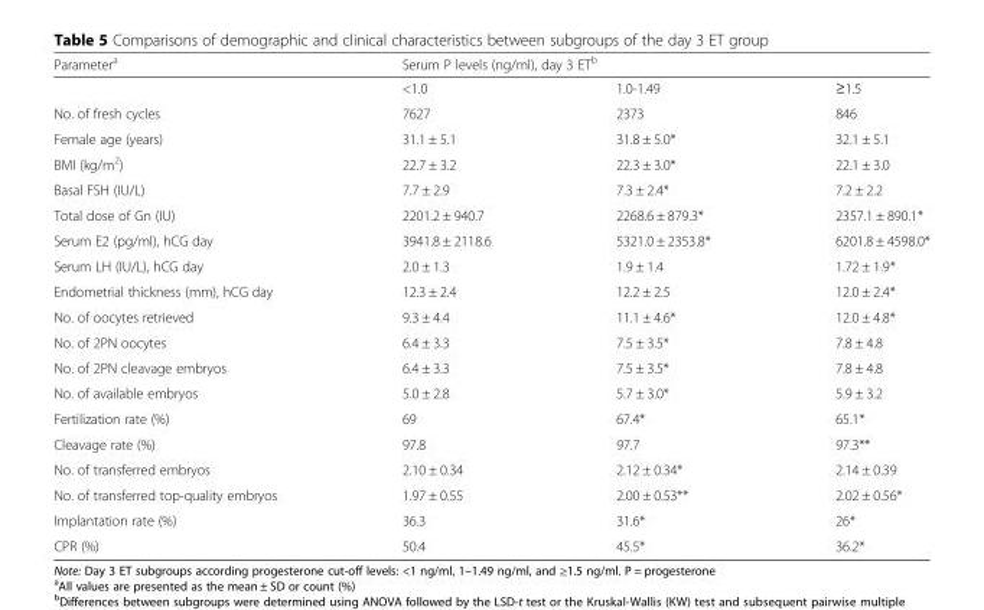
<table><thead><tr><td rowspan="2">Parameter<sup>a</sup></td><td colspan="3">Serum P levels (ng/ml), day 3 ET<sup>b</sup></td></tr><tr><td>&lt;1.0</td><td>1.0-1.49</td><td>≥1.5</td></tr></thead><tbody><tr><td>No. of fresh cycles</td><td>7627</td><td>2373</td><td>846</td></tr><tr><td>Female age (years)</td><td>31.1 ± 5.1</td><td>31.8 ± 5.0*</td><td>32.1 ± 5.1</td></tr><tr><td>BMI (kg/m<sup>2</sup>)</td><td>22.7 ± 3.2</td><td>22.3 ± 3.0*</td><td>22.1 ± 3.0</td></tr><tr><td>Basal FSH (IU/L)</td><td>7.7 ± 2.9</td><td>7.3 ± 2.4*</td><td>7.2 ± 2.2</td></tr><tr><td>Total dose of Gn (IU)</td><td>2201.2 ± 940.7</td><td>2268.6 ± 879.3*</td><td>2357.1 ± 890.1*</td></tr><tr><td>Serum E2 (pg/ml), hCG day</td><td>3941.8 ± 2118.6</td><td>5321.0 ± 2353.8*</td><td>6201.8 ± 4598.0*</td></tr><tr><td>Serum LH (IU/L), hCG day</td><td>2.0 ± 1.3</td><td>1.9 ± 1.4</td><td>1.72 ± 1.9*</td></tr><tr><td>Endometrial thickness (mm), hCG day</td><td>12.3 ± 2.4</td><td>12.2 ± 2.5</td><td>12.0 ± 2.4*</td></tr><tr><td>No. of oocytes retrieved</td><td>9.3 ± 4.4</td><td>11.1 ± 4.6*</td><td>12.0 ± 4.8*</td></tr><tr><td>No. of 2PN oocytes</td><td>6.4 ± 3.3</td><td>7.5 ± 3.5*</td><td>7.8 ± 4.8</td></tr><tr><td>No. of 2PN cleavage embryos</td><td>6.4 ± 3.3</td><td>7.5 ± 3.5*</td><td>7.8 ± 4.8</td></tr><tr><td>No. of available embryos</td><td>5.0 ± 2.8</td><td>5.7 ± 3.0*</td><td>5.9 ± 3.2</td></tr><tr><td>Fertilization rate (%)</td><td>69</td><td>67.4*</td><td>65.1*</td></tr><tr><td>Cleavage rate (%)</td><td>97.8</td><td>97.7</td><td>97.3**</td></tr><tr><td>No. of transferred embryos</td><td>2.10 ± 0.34</td><td>2.12 ± 0.34*</td><td>2.14 ± 0.39</td></tr><tr><td>No. of transferred top-quality embryos</td><td>1.97 ± 0.55</td><td>2.00 ± 0.53**</td><td>2.02 ± 0.56*</td></tr><tr><td>Implantation rate (%)</td><td>36.3</td><td>31.6*</td><td>26*</td></tr><tr><td>CPR (%)</td><td>50.4</td><td>45.5*</td><td>36.2*</td></tr></tbody></table>